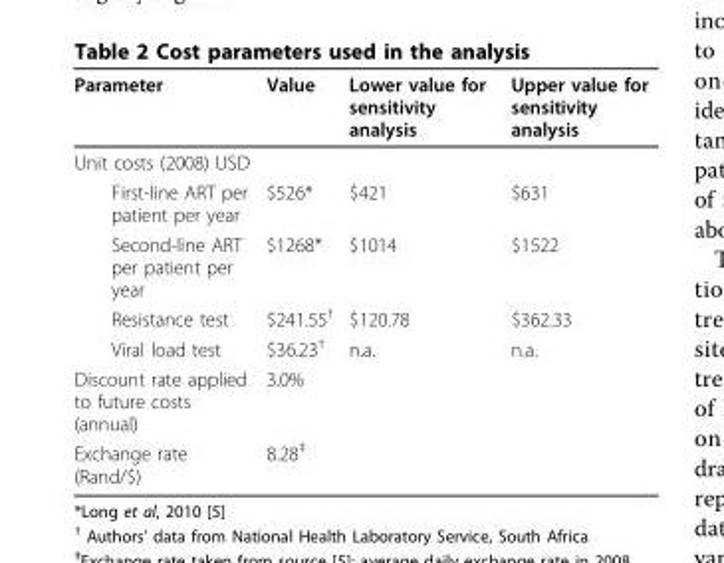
<table><thead><tr><td>Parameter</td><td>Value</td><td>Lower value for sensitivity analysis</td><td>Upper value for sensitivity analysis</td></tr></thead><tbody><tr><td colspan="4">Unit costs (2008) USD</td></tr><tr><td>First-line ART per patient per year</td><td>$526*</td><td>$421</td><td>$631</td></tr><tr><td>Second-line ART per patient per year</td><td>$1268*</td><td>$1014</td><td>$1522</td></tr><tr><td>Resistance test</td><td>$241.55<sup>†</sup></td><td>$120.78</td><td>$362.33</td></tr><tr><td>Viral load test</td><td>$36.23<sup>†</sup></td><td>n.a.</td><td>n.a.</td></tr><tr><td>Discount rate applied to future costs (annual)</td><td>3.0%</td><td></td><td></td></tr><tr><td>Exchange rate (Rand/$)</td><td>8.28<sup>‡</sup></td><td></td><td></td></tr></tbody></table>